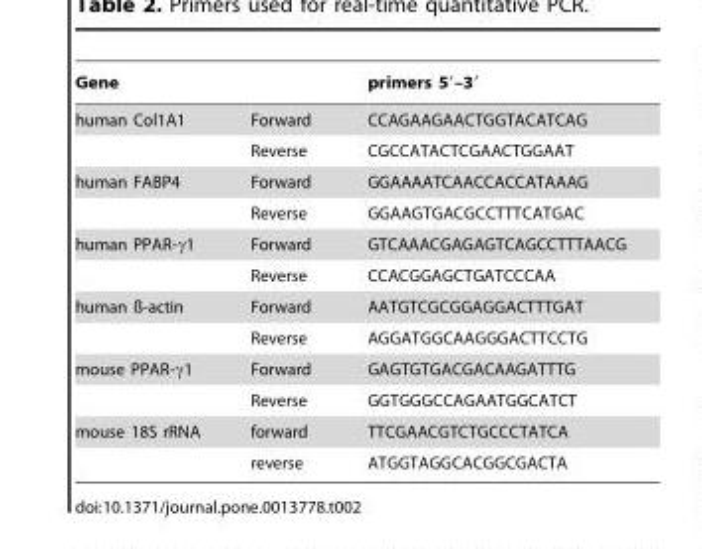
<table><thead><tr><td>Gene</td><td></td><td>primers 5′–3′</td></tr></thead><tbody><tr><td rowspan="2">human Col1A1</td><td>Forward</td><td>CCAGAAGAACTGGTACATCAG</td></tr><tr><td>Reverse</td><td>CGCCATACTCGAACTGGAAT</td></tr><tr><td rowspan="2">human FABP4</td><td>Forward</td><td>GGAAAATCAACCACCATAAAG</td></tr><tr><td>Reverse</td><td>GGAAGTGACGCCTTTCATGAC</td></tr><tr><td rowspan="2">human PPAR-γ1</td><td>Forward</td><td>GTCAAACGAGAGTCAGCCTTTAACG</td></tr><tr><td>Reverse</td><td>CCACGGAGCTGATCCCAA</td></tr><tr><td rowspan="2">human ß-actin</td><td>Forward</td><td>AATGTCGCGGAGGACTTTGAT</td></tr><tr><td>Reverse</td><td>AGGATGGCAAGGGACTTCCTG</td></tr><tr><td rowspan="2">mouse PPAR-γ1</td><td>Forward</td><td>GAGTGTGACGACAAGATTTG</td></tr><tr><td>Reverse</td><td>GGTGGGCCAGAATGGCATCT</td></tr><tr><td rowspan="2">mouse 18S rRNA</td><td>forward</td><td>TTCGAACGTCTGCCCTATCA</td></tr><tr><td>reverse</td><td>ATGGTAGGCACGGCGACTA</td></tr></tbody></table>